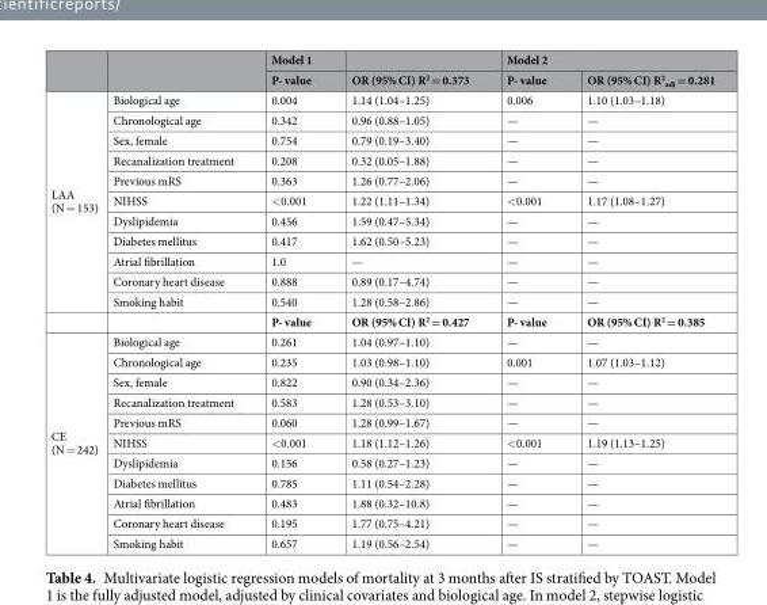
<table><thead><tr><td rowspan="2"></td><td rowspan="2"></td><td rowspan="2">Model 1 P- value</td><td rowspan="2">OR (95% CI) R<sup>2</sup> = 0.373</td><td colspan="2">Model 2</td></tr><tr><td>P- value</td><td>OR (95% CI) R<sup>2</sup> <sub>adj</sub> = 0.281</td></tr></thead><tbody><tr><td rowspan="12">LAA (N = 153)</td><td>Biological age</td><td>0.004</td><td>1.14 (1.04–1.25)</td><td>0.006</td><td>1.10 (1.03–1.18)</td></tr><tr><td>Chronological age</td><td>0.342</td><td>0.96 (0.88–1.05)</td><td>—</td><td>—</td></tr><tr><td>Sex, female</td><td>0.754</td><td>0.79 (0.19–3.40)</td><td>—</td><td>—</td></tr><tr><td>Recanalization treatment</td><td>0.208</td><td>0.32 (0.05–1.88)</td><td>—</td><td>—</td></tr><tr><td>Previous mRS</td><td>0.363</td><td>1.26 (0.77–2.06)</td><td>—</td><td>—</td></tr><tr><td>NIHSS</td><td>&lt;0.001</td><td>1.22 (1.11–1.34)</td><td>&lt;0.001</td><td>1.17 (1.08–1.27)</td></tr><tr><td>Dyslipidemia</td><td>0.456</td><td>1.59 (0.47–5.34)</td><td>—</td><td>—</td></tr><tr><td>Diabetes mellitus</td><td>0.417</td><td>1.62 (0.50–5.23)</td><td>—</td><td>—</td></tr><tr><td>Atrial fibrillation</td><td>1.0</td><td>—</td><td>—</td><td>—</td></tr><tr><td>Coronary heart disease</td><td>0.888</td><td>0.89 (0.17–4.74)</td><td>—</td><td>—</td></tr><tr><td>Smoking habit</td><td>0.540</td><td>1.28 (0.58–2.86)</td><td>—</td><td>—</td></tr><tr><td></td><td>P- value</td><td>OR (95% CI) R<sup>2</sup> = 0.427</td><td>P- value</td><td>OR (95% CI) R<sup>2</sup> = 0.385</td></tr><tr><td rowspan="11">CE (N = 242)</td><td>Biological age</td><td>0.261</td><td>1.04 (0.97–1.10)</td><td>—</td><td>—</td></tr><tr><td>Chronological age</td><td>0.235</td><td>1.03 (0.98–1.10)</td><td>0.001</td><td>1.07 (1.03–1.12)</td></tr><tr><td>Sex, female</td><td>0.822</td><td>0.90 (0.34–2.36)</td><td>—</td><td>—</td></tr><tr><td>Recanalization treatment</td><td>0.583</td><td>1.28 (0.53–3.10)</td><td>—</td><td>—</td></tr><tr><td>Previous mRS</td><td>0.060</td><td>1.28 (0.99–1.67)</td><td>—</td><td>—</td></tr><tr><td>NIHSS</td><td>&lt;0.001</td><td>1.18 (1.12–1.26)</td><td>&lt;0.001</td><td>1.19 (1.13–1.25)</td></tr><tr><td>Dyslipidemia</td><td>0.156</td><td>0.58 (0.27–1.23)</td><td>—</td><td>—</td></tr><tr><td>Diabetes mellitus</td><td>0.785</td><td>1.11 (0.54–2.28)</td><td>—</td><td>—</td></tr><tr><td>Atrial fibrillation</td><td>0.483</td><td>1.88 (0.32–10.8)</td><td>—</td><td>—</td></tr><tr><td>Coronary heart disease</td><td>0.195</td><td>1.77 (0.75–4.21)</td><td>—</td><td>—</td></tr><tr><td>Smoking habit</td><td>0.657</td><td>1.19 (0.56–2.54)</td><td>—</td><td>—</td></tr></tbody></table>